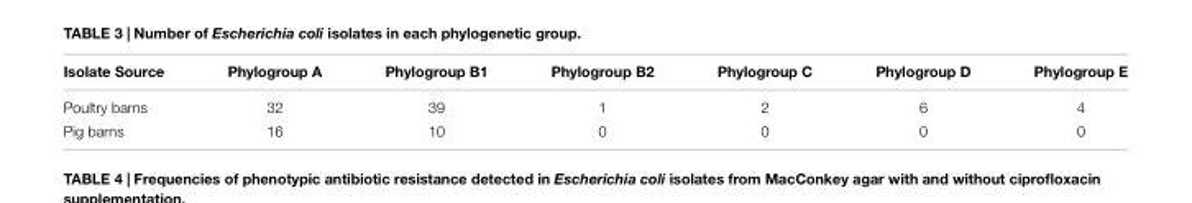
<table><thead><tr><td>Isolate Source</td><td>Phylogroup A</td><td>Phylogroup B1</td><td>Phylogroup B2</td><td>Phylogroup C</td><td>Phylogroup D</td><td>Phylogroup E</td></tr></thead><tbody><tr><td>Poultry barns</td><td>32</td><td>39</td><td>1</td><td>2</td><td>6</td><td>4</td></tr><tr><td>Pig barns</td><td>16</td><td>10</td><td>0</td><td>0</td><td>0</td><td>0</td></tr></tbody></table>